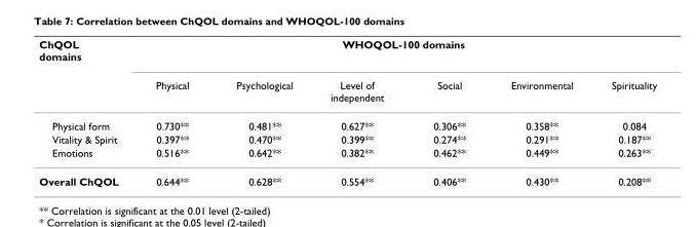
<table><thead><tr><td rowspan="2">ChQOL domains</td><td colspan="6">WHOQOL-100 domains</td></tr><tr><td>Physical</td><td>Psychological</td><td>Level of independent</td><td>Social</td><td>Environmental</td><td>Spirituality</td></tr></thead><tbody><tr><td>Physical form</td><td>0.730**</td><td>0.481**</td><td>0.627**</td><td>0.306**</td><td>0.358**</td><td>0.084</td></tr><tr><td>Vitality &amp; Spirit</td><td>0.397**</td><td>0.470**</td><td>0.399**</td><td>0.274**</td><td>0.291**</td><td>0.187**</td></tr><tr><td>Emotions</td><td>0.516**</td><td>0.642**</td><td>0.382**</td><td>0.462**</td><td>0.449**</td><td>0.263**</td></tr><tr><td>Overall ChQOL</td><td>0.644**</td><td>0.628**</td><td>0.554**</td><td>0.406**</td><td>0.430**</td><td>0.208**</td></tr></tbody></table>